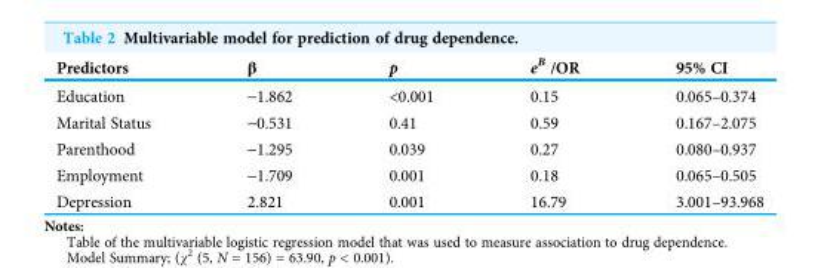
<table><thead><tr><td>Predictors</td><td>β</td><td>p</td><td>e<sup>B</sup> /OR</td><td>95% CI</td></tr></thead><tbody><tr><td>Education</td><td>-1.862</td><td>&lt;0.001</td><td>0.15</td><td>0.065–0.374</td></tr><tr><td>Marital Status</td><td>-0.531</td><td>0.41</td><td>0.59</td><td>0.167–2.075</td></tr><tr><td>Parenthood</td><td>-1.295</td><td>0.039</td><td>0.27</td><td>0.080–0.937</td></tr><tr><td>Employment</td><td>-1.709</td><td>0.001</td><td>0.18</td><td>0.065–0.505</td></tr><tr><td>Depression</td><td>2.821</td><td>0.001</td><td>16.79</td><td>3.001–93.968</td></tr></tbody></table>